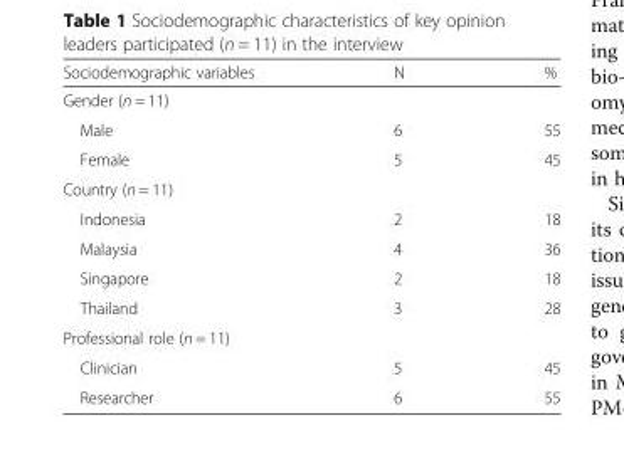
<table><thead><tr><td>Sociodemographic variables</td><td>N</td><td>%</td></tr></thead><tbody><tr><td colspan="3">Gender (n = 11)</td></tr><tr><td>Male</td><td>6</td><td>55</td></tr><tr><td>Female</td><td>5</td><td>45</td></tr><tr><td colspan="3">Country (n = 11)</td></tr><tr><td>Indonesia</td><td>2</td><td>18</td></tr><tr><td>Malaysia</td><td>4</td><td>36</td></tr><tr><td>Singapore</td><td>2</td><td>18</td></tr><tr><td>Thailand</td><td>3</td><td>28</td></tr><tr><td colspan="3">Professional role (n = 11)</td></tr><tr><td>Clinician</td><td>5</td><td>45</td></tr><tr><td>Researcher</td><td>6</td><td>55</td></tr></tbody></table>